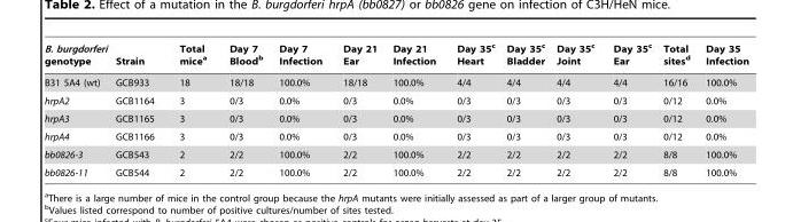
<table><thead><tr><td>B. burgdorferi genotype</td><td>Strain</td><td>Total mice<sup>a</sup></td><td>Day 7 Blood<sup>b</sup></td><td>Day 7 Infection</td><td>Day 21 Ear</td><td>Day 21 Infection</td><td>Day 35<sup>c</sup> Heart</td><td>Day 35<sup>c</sup> Bladder</td><td>Day 35<sup>c</sup> Joint</td><td>Day 35<sup>c</sup> Ear</td><td>Total sites<sup>d</sup></td><td>Day 35 Infection</td></tr></thead><tbody><tr><td>B31 5A4 (wt)</td><td>GCB933</td><td>18</td><td>18/18</td><td>100.0%</td><td>18/18</td><td>100.0%</td><td>4/4</td><td>4/4</td><td>4/4</td><td>4/4</td><td>16/16</td><td>100.0%</td></tr><tr><td>hrpA2</td><td>GCB1164</td><td>3</td><td>0/3</td><td>0.0%</td><td>0/3</td><td>0.0%</td><td>0/3</td><td>0/3</td><td>0/3</td><td>0/3</td><td>0/12</td><td>0.0%</td></tr><tr><td>hrpA3</td><td>GCB1165</td><td>3</td><td>0/3</td><td>0.0%</td><td>0/3</td><td>0.0%</td><td>0/3</td><td>0/3</td><td>0/3</td><td>0/3</td><td>0/12</td><td>0.0%</td></tr><tr><td>hrpA4</td><td>GCB1166</td><td>3</td><td>0/3</td><td>0.0%</td><td>0/3</td><td>0.0%</td><td>0/3</td><td>0/3</td><td>0/3</td><td>0/3</td><td>0/12</td><td>0.0%</td></tr><tr><td>bb0826-3</td><td>GCB543</td><td>2</td><td>2/2</td><td>100.0%</td><td>2/2</td><td>100.0%</td><td>2/2</td><td>2/2</td><td>2/2</td><td>2/2</td><td>8/8</td><td>100.0%</td></tr><tr><td>bb0826-11</td><td>GCB544</td><td>2</td><td>2/2</td><td>100.0%</td><td>2/2</td><td>100.0%</td><td>2/2</td><td>2/2</td><td>2/2</td><td>2/2</td><td>8/8</td><td>100.0%</td></tr></tbody></table>